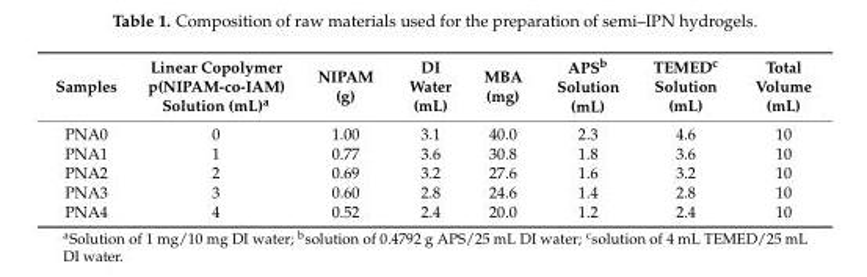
<table><thead><tr><td>Samples</td><td>Linear Copolymer p(NIPAM-co-IAM) Solution (mL)<sup>a</sup></td><td>NIPAM (g)</td><td>DI Water (mL)</td><td>MBA (mg)</td><td>APS<sup>b</sup> Solution (mL)</td><td>TEMED<sup>c</sup> Solution (mL)</td><td>Total Volume (mL)</td></tr></thead><tbody><tr><td>PNA0</td><td>0</td><td>1.00</td><td>3.1</td><td>40.0</td><td>2.3</td><td>4.6</td><td>10</td></tr><tr><td>PNA1</td><td>1</td><td>0.77</td><td>3.6</td><td>30.8</td><td>1.8</td><td>3.6</td><td>10</td></tr><tr><td>PNA2</td><td>2</td><td>0.69</td><td>3.2</td><td>27.6</td><td>1.6</td><td>3.2</td><td>10</td></tr><tr><td>PNA3</td><td>3</td><td>0.60</td><td>2.8</td><td>24.6</td><td>1.4</td><td>2.8</td><td>10</td></tr><tr><td>PNA4</td><td>4</td><td>0.52</td><td>2.4</td><td>20.0</td><td>1.2</td><td>2.4</td><td>10</td></tr></tbody></table>